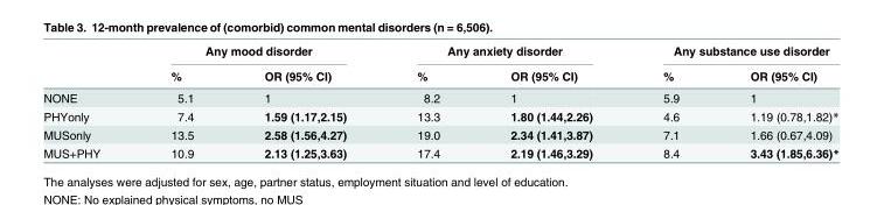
<table><thead><tr><td rowspan="2"></td><td colspan="2">Any mood disorder</td><td colspan="2">Any anxiety disorder</td><td colspan="2">Any substance use disorder</td></tr><tr><td>%</td><td>OR (95% CI)</td><td>%</td><td>OR (95% CI)</td><td>%</td><td>OR (95% CI)</td></tr></thead><tbody><tr><td>NONE</td><td>5.1</td><td>1</td><td>8.2</td><td>1</td><td>5.9</td><td>1</td></tr><tr><td>PHYonly</td><td>7.4</td><td>1.59 (1.17,2.15)</td><td>13.3</td><td>1.80 (1.44,2.26)</td><td>4.6</td><td>1.19 (0.78,1.82)*</td></tr><tr><td>MUSonly</td><td>13.5</td><td>2.58 (1.56,4.27)</td><td>19.0</td><td>2.34 (1.41,3.87)</td><td>7.1</td><td>1.66 (0.67,4.09)</td></tr><tr><td>MUS+PHY</td><td>10.9</td><td>2.13 (1.25,3.63)</td><td>17.4</td><td>2.19 (1.46,3.29)</td><td>8.4</td><td>3.43 (1.85,6.36)*</td></tr></tbody></table>